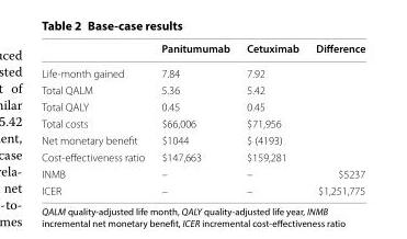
<table><thead><tr><td></td><td>Panitumumab</td><td>Cetuximab</td><td>Difference</td></tr></thead><tbody><tr><td>Life-month gained</td><td>7.84</td><td>7.92</td><td></td></tr><tr><td>Total QALM</td><td>5.36</td><td>5.42</td><td></td></tr><tr><td>Total QALY</td><td>0.45</td><td>0.45</td><td></td></tr><tr><td>Total costs</td><td>$66,006</td><td>$71,956</td><td></td></tr><tr><td>Net monetary benefit</td><td>$1044</td><td>$ (4193)</td><td></td></tr><tr><td>Cost-effectiveness ratio</td><td>$147,663</td><td>$159,281</td><td></td></tr><tr><td>INMB</td><td>–</td><td>–</td><td>$5237</td></tr><tr><td>ICER</td><td>–</td><td>–</td><td>$1,251,775</td></tr></tbody></table>